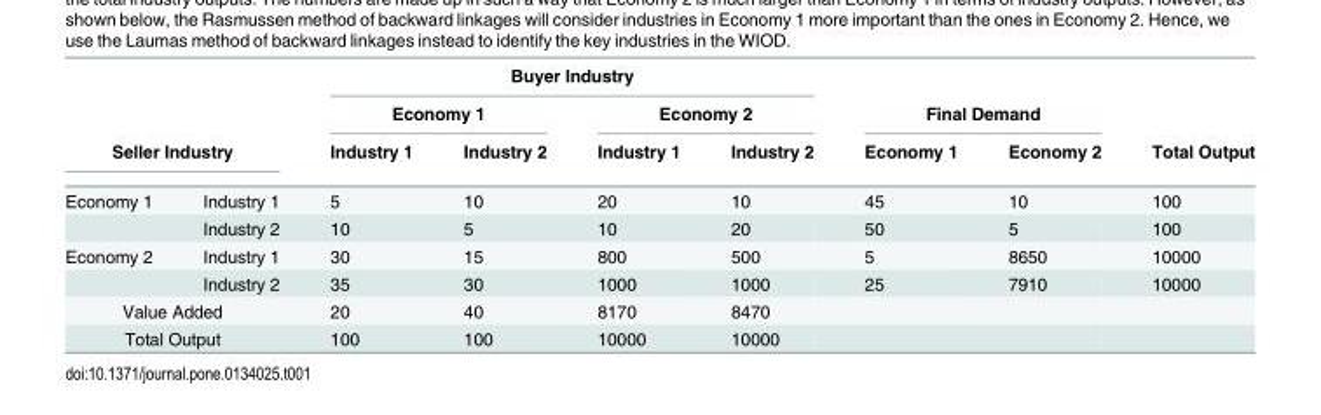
<table><thead><tr><td rowspan="2"></td><td rowspan="2"></td><td colspan="4">Buyer Industry</td><td></td><td></td><td rowspan="3">Total Output</td></tr><tr><td colspan="2">Economy 1</td><td colspan="2">Economy 2</td><td colspan="2">Final Demand</td></tr><tr><td colspan="2">Seller Industry</td><td>Industry 1</td><td>Industry 2</td><td>Industry 1</td><td>Industry 2</td><td>Economy 1</td><td>Economy 2</td></tr></thead><tbody><tr><td rowspan="2">Economy 1</td><td>Industry 1</td><td>5</td><td>10</td><td>20</td><td>10</td><td>45</td><td>10</td><td>100</td></tr><tr><td>Industry 2</td><td>10</td><td>5</td><td>10</td><td>20</td><td>50</td><td>5</td><td>100</td></tr><tr><td rowspan="2">Economy 2</td><td>Industry 1</td><td>30</td><td>15</td><td>800</td><td>500</td><td>5</td><td>8650</td><td>10000</td></tr><tr><td>Industry 2</td><td>35</td><td>30</td><td>1000</td><td>1000</td><td>25</td><td>7910</td><td>10000</td></tr><tr><td colspan="2">Value Added</td><td>20</td><td>40</td><td>8170</td><td>8470</td><td></td><td></td><td></td></tr><tr><td colspan="2">Total Output</td><td>100</td><td>100</td><td>10000</td><td>10000</td><td></td><td></td><td></td></tr></tbody></table>